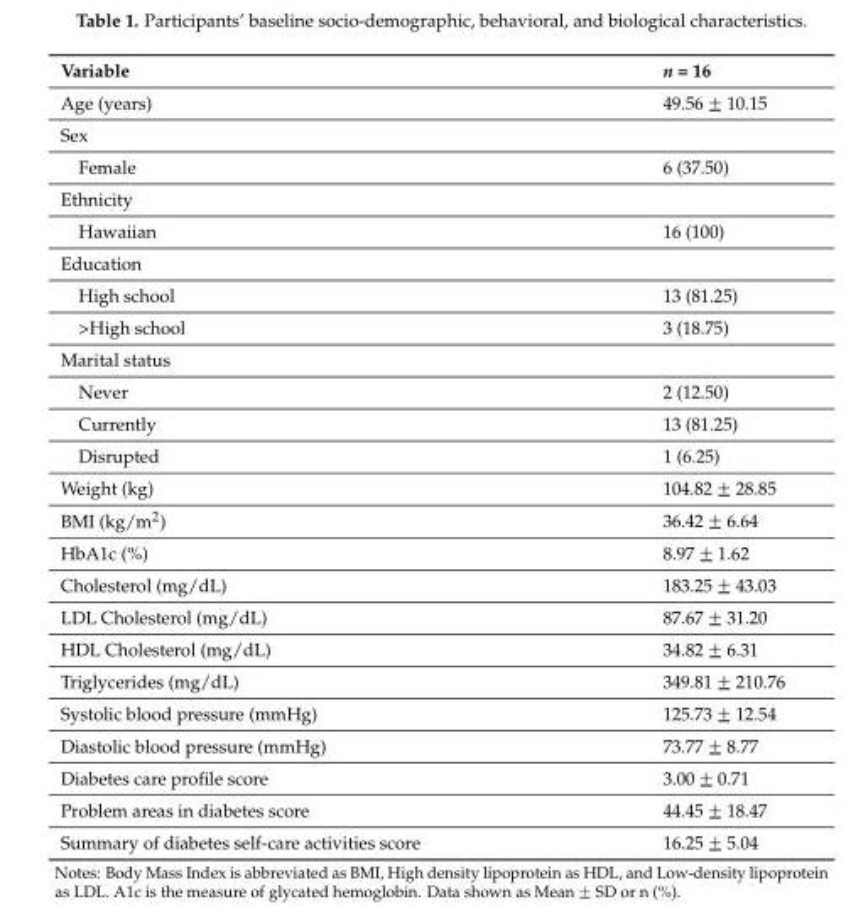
<table><thead><tr><td>Variable</td><td>n = 16</td></tr></thead><tbody><tr><td>Age (years)</td><td>49.56 ± 10.15</td></tr><tr><td colspan="2">Sex</td></tr><tr><td>Female</td><td>6 (37.50)</td></tr><tr><td colspan="2">Ethnicity</td></tr><tr><td>Hawaiian</td><td>16 (100)</td></tr><tr><td colspan="2">Education</td></tr><tr><td>High school</td><td>13 (81.25)</td></tr><tr><td>&gt;High school</td><td>3 (18.75)</td></tr><tr><td colspan="2">Marital status</td></tr><tr><td>Never</td><td>2 (12.50)</td></tr><tr><td>Currently</td><td>13 (81.25)</td></tr><tr><td>Disrupted</td><td>1 (6.25)</td></tr><tr><td>Weight (kg)</td><td>104.82 ± 28.85</td></tr><tr><td>BMI (kg/m<sup>2</sup>)</td><td>36.42 ± 6.64</td></tr><tr><td>HbA1c (%)</td><td>8.97 ± 1.62</td></tr><tr><td>Cholesterol (mg/dL)</td><td>183.25 ± 43.03</td></tr><tr><td>LDL Cholesterol (mg/dL)</td><td>87.67 ± 31.20</td></tr><tr><td>HDL Cholesterol (mg/dL)</td><td>34.82 ± 6.31</td></tr><tr><td>Triglycerides (mg/dL)</td><td>349.81 ± 210.76</td></tr><tr><td>Systolic blood pressure (mmHg)</td><td>125.73 ± 12.54</td></tr><tr><td>Diastolic blood pressure (mmHg)</td><td>73.77 ± 8.77</td></tr><tr><td>Diabetes care profile score</td><td>3.00 ± 0.71</td></tr><tr><td>Problem areas in diabetes score</td><td>44.45 ± 18.47</td></tr><tr><td>Summary of diabetes self-care activities score</td><td>16.25 ± 5.04</td></tr></tbody></table>